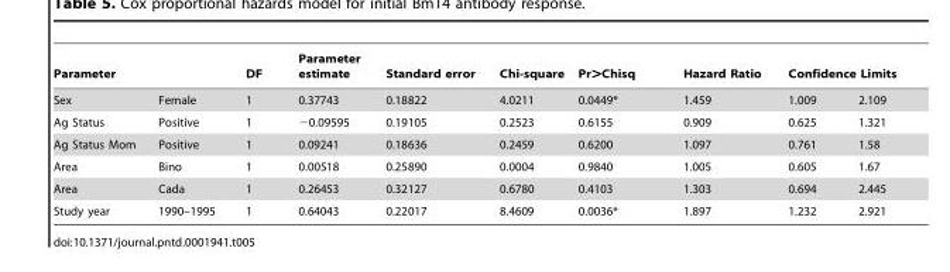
<table><thead><tr><td rowspan="2">Parameter Sex</td><td rowspan="2">Female</td><td rowspan="2">DF 1</td><td rowspan="2">Parameter estimate 0.37743</td><td rowspan="2">Standard error 0.18822</td><td rowspan="2">Chi-square 4.0211</td><td rowspan="2">Pr&gt;Chisq 0.0449*</td><td rowspan="2">Hazard Ratio 1.459</td><td colspan="2">Confidence Limits</td></tr><tr><td>1.009</td><td>2.109</td></tr></thead><tbody><tr><td>Ag Status</td><td>Positive</td><td>1</td><td>−0.09595</td><td>0.19105</td><td>0.2523</td><td>0.6155</td><td>0.909</td><td>0.625</td><td>1.321</td></tr><tr><td>Ag Status Mom</td><td>Positive</td><td>1</td><td>0.09241</td><td>0.18636</td><td>0.2459</td><td>0.6200</td><td>1.097</td><td>0.761</td><td>1.58</td></tr><tr><td>Area</td><td>Bino</td><td>1</td><td>0.00518</td><td>0.25890</td><td>0.0004</td><td>0.9840</td><td>1.005</td><td>0.605</td><td>1.67</td></tr><tr><td>Area</td><td>Cada</td><td>1</td><td>0.26453</td><td>0.32127</td><td>0.6780</td><td>0.4103</td><td>1.303</td><td>0.694</td><td>2.445</td></tr><tr><td>Study year</td><td>1990–1995</td><td>1</td><td>0.64043</td><td>0.22017</td><td>8.4609</td><td>0.0036*</td><td>1.897</td><td>1.232</td><td>2.921</td></tr></tbody></table>